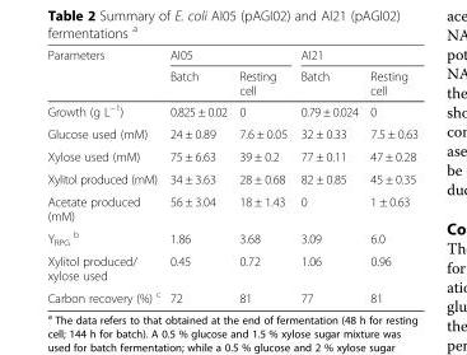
<table><thead><tr><td rowspan="2">Parameters</td><td colspan="2">AI05</td><td colspan="2">AI21</td></tr><tr><td>Batch</td><td>Resting cell</td><td>Batch</td><td>Resting cell</td></tr></thead><tbody><tr><td>Growth (g L<sup>−1</sup>)</td><td>0.825 ± 0.02</td><td>0</td><td>0.79 ± 0.024</td><td>0</td></tr><tr><td>Glucose used (mM)</td><td>24 ± 0.89</td><td>7.6 ± 0.05</td><td>32 ± 0.33</td><td>7.5 ± 0.63</td></tr><tr><td>Xylose used (mM)</td><td>75 ± 6.63</td><td>39 ± 0.2</td><td>77 ± 0.11</td><td>47 ± 0.28</td></tr><tr><td>Xylitol produced (mM)</td><td>34 ± 3.63</td><td>28 ± 0.68</td><td>82 ± 0.85</td><td>45 ± 0.35</td></tr><tr><td>Acetate produced (mM)</td><td>56 ± 3.04</td><td>18 ± 1.43</td><td>0</td><td>1 ± 0.63</td></tr><tr><td>Y<sub>RPG</sub> <sup>b</sup></td><td>1.86</td><td>3.68</td><td>3.09</td><td>6.0</td></tr><tr><td>Xylitol produced/ xylose used</td><td>0.45</td><td>0.72</td><td>1.06</td><td>0.96</td></tr><tr><td>Carbon recovery (%) <sup>c</sup></td><td>72</td><td>81</td><td>77</td><td>81</td></tr></tbody></table>